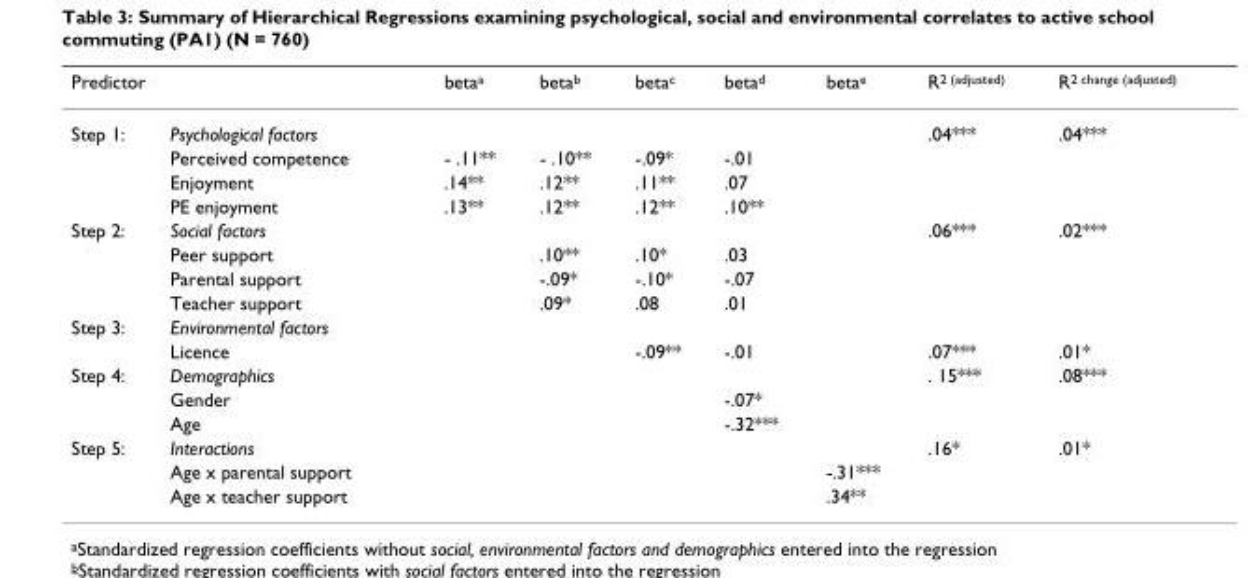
<table><thead><tr><td colspan="2">Predictor</td><td rowspan="2">beta<sup>a</sup></td><td rowspan="2">beta<sup>b</sup></td><td rowspan="2">beta<sup>c</sup></td><td rowspan="2">beta<sup>d</sup></td><td rowspan="2">beta<sup>e</sup></td><td rowspan="2">R<sup>2 (adjusted)</sup> .04***</td><td rowspan="2">R<sup>2 change (adjusted)</sup> .04***</td></tr><tr><td>Step 1:</td><td>Psychological factors</td></tr></thead><tbody><tr><td></td><td>Perceived competence</td><td>- .11**</td><td>- .10**</td><td>-.09*</td><td>-.01</td><td></td><td></td><td></td></tr><tr><td></td><td>Enjoyment</td><td>.14**</td><td>.12**</td><td>.11**</td><td>.07</td><td></td><td></td><td></td></tr><tr><td></td><td>PE enjoyment</td><td>.13**</td><td>.12**</td><td>.12**</td><td>.10**</td><td></td><td></td><td></td></tr><tr><td rowspan="4">Step 2:</td><td>Social factors</td><td></td><td></td><td></td><td></td><td></td><td>.06***</td><td>.02***</td></tr><tr><td>Peer support</td><td></td><td>.10**</td><td>.10*</td><td>.03</td><td></td><td></td><td></td></tr><tr><td>Parental support</td><td></td><td>-.09*</td><td>-.10*</td><td>-.07</td><td></td><td></td><td></td></tr><tr><td>Teacher support</td><td></td><td>.09*</td><td>.08</td><td>.01</td><td></td><td></td><td></td></tr><tr><td rowspan="2">Step 3:</td><td>Environmental factors</td><td></td><td></td><td></td><td></td><td></td><td></td><td></td></tr><tr><td>Licence</td><td></td><td></td><td>-.09**</td><td>-.01</td><td></td><td>.07***</td><td>.01*</td></tr><tr><td rowspan="3">Step 4:</td><td>Demographics</td><td></td><td></td><td></td><td></td><td></td><td>. 15***</td><td>.08***</td></tr><tr><td>Gender</td><td></td><td></td><td></td><td>-.07*</td><td></td><td></td><td></td></tr><tr><td>Age</td><td></td><td></td><td></td><td>-.32***</td><td></td><td></td><td></td></tr><tr><td rowspan="3">Step 5:</td><td>Interactions</td><td></td><td></td><td></td><td></td><td></td><td>.16*</td><td>.01*</td></tr><tr><td>Age x parental support</td><td></td><td></td><td></td><td></td><td>-.31***</td><td></td><td></td></tr><tr><td>Age x teacher support</td><td></td><td></td><td></td><td></td><td>.34**</td><td></td><td></td></tr></tbody></table>